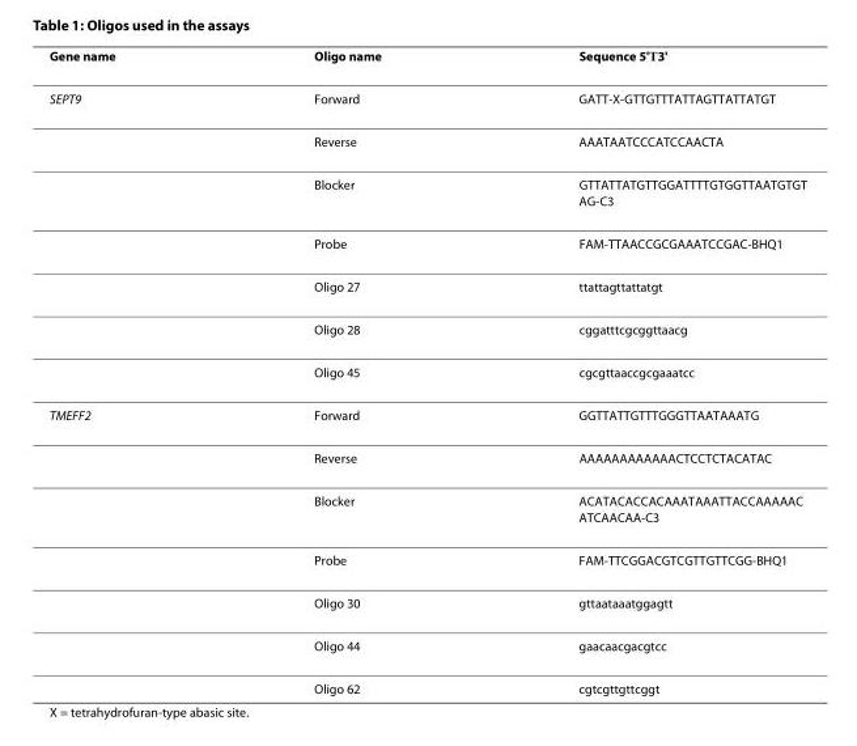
<table><thead><tr><td>Gene name</td><td>Oligo name</td><td>Sequence 5&#x27;→3&#x27;</td></tr></thead><tbody><tr><td rowspan="7">SEPT9</td><td>Forward</td><td>GATT-X-GTTGTTTATTAGTTATTATGT</td></tr><tr><td>Reverse</td><td>AAATAATCCCATCCAACTA</td></tr><tr><td>Blocker</td><td>GTTATTATGTTGGATTTTGTGGTTAATGTGT AG-C3</td></tr><tr><td>Probe</td><td>FAM-TTAACCGCGAAATCCGAC-BHQ1</td></tr><tr><td>Oligo 27</td><td>ttattagttattatgt</td></tr><tr><td>Oligo 28</td><td>cggatttcgcggttaacg</td></tr><tr><td>Oligo 45</td><td>cgcgttaaccgcgaaatcc</td></tr><tr><td rowspan="7">TMEFF2</td><td>Forward</td><td>GGTTATTGTTTGGGTTAATAAATG</td></tr><tr><td>Reverse</td><td>AAAAAAAAAAAACTCCTCTACATAC</td></tr><tr><td>Blocker</td><td>ACATACACCACAAATAAATTACCAAAAAC ATCAACAA-C3</td></tr><tr><td>Probe</td><td>FAM-TTCGGACGTCGTTGTTCGG-BHQ1</td></tr><tr><td>Oligo 30</td><td>gttaataaatggagtt</td></tr><tr><td>Oligo 44</td><td>gaacaacgacgtcc</td></tr><tr><td>Oligo 62</td><td>cgtcgttgttcggt</td></tr></tbody></table>